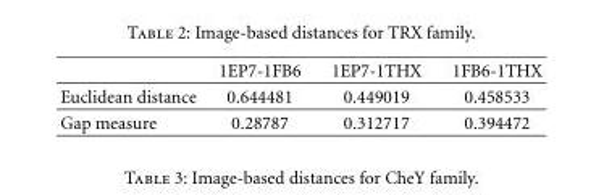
<table><thead><tr><td></td><td>1EP7-1FB6</td><td>1EP7-1THX</td><td>1FB6-1THX</td></tr></thead><tbody><tr><td>Euclidean distance</td><td>0.644481</td><td>0.449019</td><td>0.458533</td></tr><tr><td>Gap measure</td><td>0.28787</td><td>0.312717</td><td>0.394472</td></tr></tbody></table>